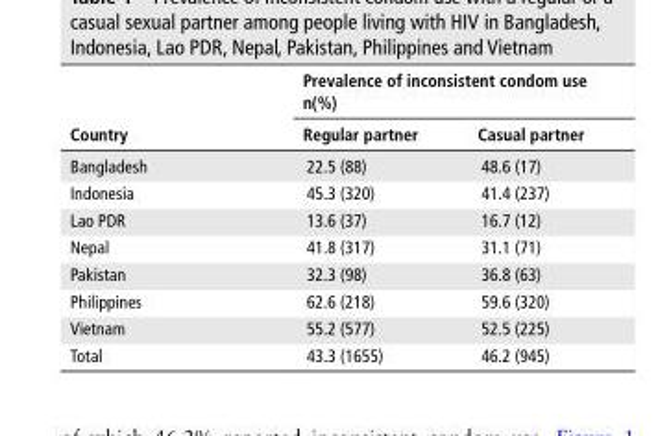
<table><thead><tr><td rowspan="2">Country</td><td colspan="2">Prevalence of inconsistent condom use n(%)</td></tr><tr><td>regular partner</td><td>Casual partner</td></tr></thead><tbody><tr><td>Bangladesh</td><td>22.5 (88)</td><td>48.6 (17)</td></tr><tr><td>Indonesia</td><td>45.3 (320)</td><td>41.4 (237)</td></tr><tr><td>Lao PDR</td><td>13.6 (37)</td><td>16.7 (12)</td></tr><tr><td>Nepal</td><td>41.8 (317)</td><td>31.1 (71)</td></tr><tr><td>Pakistan</td><td>32.3 (98)</td><td>36.8 (63)</td></tr><tr><td>Philippines</td><td>62.6 (218)</td><td>59.6 (320)</td></tr><tr><td>Vietnam</td><td>55.2 (577)</td><td>52.5 (225)</td></tr><tr><td>Total</td><td>43.3 (1655)</td><td>46.2 (945)</td></tr></tbody></table>